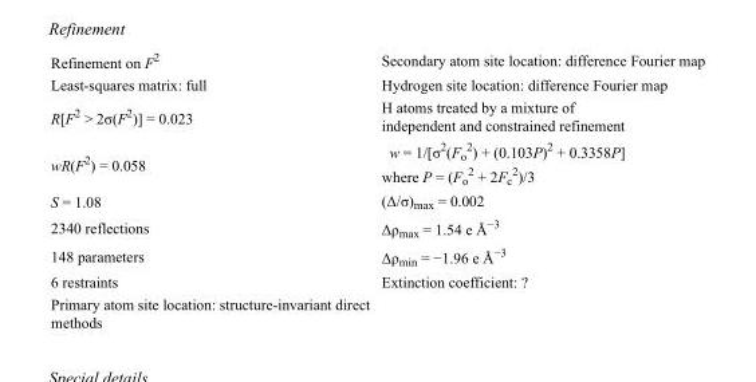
<table><tbody><tr><td>Refinement on F<sup>2</sup></td><td>Secondary atom site location: difference Fourier map</td></tr><tr><td>Least-squares matrix: full</td><td>Hydrogen site location: difference Fourier map</td></tr><tr><td>R[F<sup>2</sup> &gt; 2σ(F<sup>2</sup>)] = 0.023</td><td>H atoms treated by a mixture of independent and constrained refinement</td></tr><tr><td>wR(F<sup>2</sup>) = 0.058</td><td>w = 1/[σ<sup>2</sup>(F<sub>o</sub> <sup>2</sup>) + (0.103P)<sup>2</sup> + 0.3358P] where P = (F<sub>o</sub> <sup>2</sup> + 2F<sub>c</sub> <sup>2</sup>)/3</td></tr><tr><td>S = 1.08</td><td>(Δ/σ)<sub>max</sub> = 0.002</td></tr><tr><td>2340 reflections</td><td>Δρ<sub>max</sub> = 1.54 e Å<sup>−3</sup></td></tr><tr><td>148 parameters</td><td>Δρ<sub>min</sub> = −1.96 e Å<sup>−3</sup></td></tr><tr><td>6 restraints</td><td>Extinction coefficient: ?</td></tr><tr><td>Primary atom site location: structure-invariant direct methods</td><td></td></tr></tbody></table>